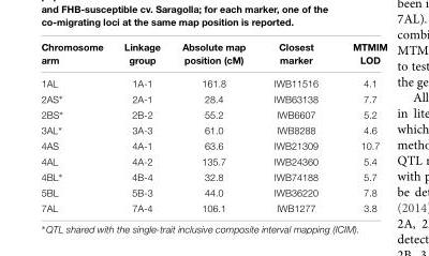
<table><thead><tr><td>Chromosome arm</td><td>Linkage group</td><td>Absolute map position (cM)</td><td>Closest marker</td><td>MTMIM LOD</td></tr></thead><tbody><tr><td>1AL</td><td>1A-1</td><td>161.8</td><td>IWB11516</td><td>4.1</td></tr><tr><td>2AS∗</td><td>2A-1</td><td>28.4</td><td>IWB63138</td><td>7.7</td></tr><tr><td>2BS∗</td><td>2B-2</td><td>55.2</td><td>IWB6607</td><td>5.2</td></tr><tr><td>3AL∗</td><td>3A-3</td><td>61.0</td><td>IWB8288</td><td>4.6</td></tr><tr><td>4AS</td><td>4A-1</td><td>63.6</td><td>IWB21309</td><td>10.7</td></tr><tr><td>4AL</td><td>4A-2</td><td>135.7</td><td>IWB24360</td><td>5.4</td></tr><tr><td>4BL∗</td><td>4B-4</td><td>32.8</td><td>IWB74188</td><td>5.7</td></tr><tr><td>5BL</td><td>5B-3</td><td>44.0</td><td>IWB36220</td><td>7.8</td></tr><tr><td>7AL</td><td>7A-4</td><td>106.1</td><td>IWB1277</td><td>3.8</td></tr></tbody></table>